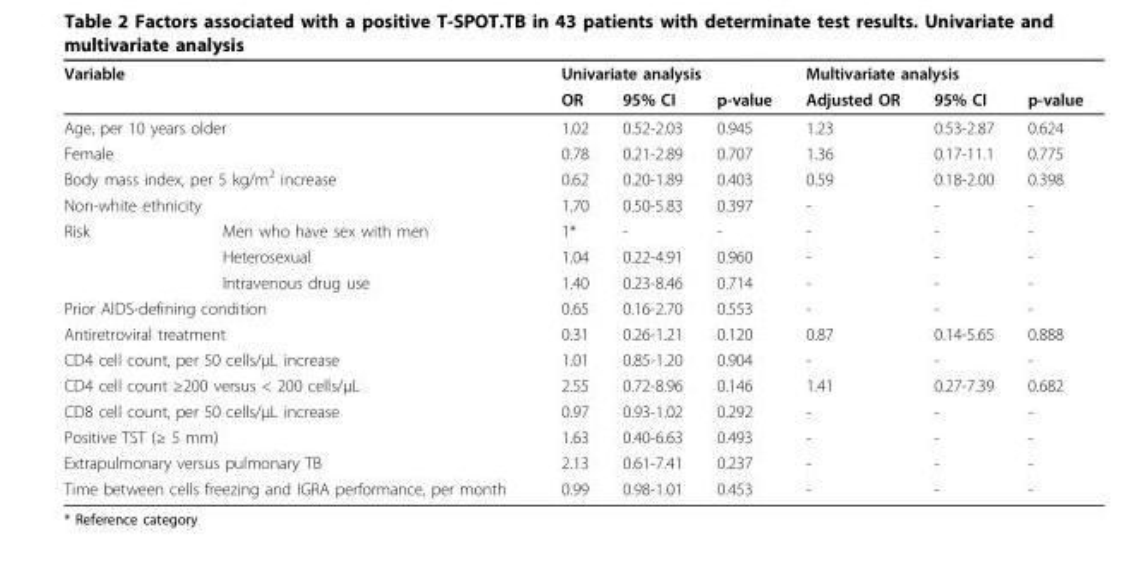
<table><thead><tr><td colspan="2">Variable</td><td colspan="3">Univariate analysis</td><td colspan="3">Multivariate analysis</td></tr><tr><td></td><td></td><td>OR</td><td>95% CI</td><td>p-value</td><td>Adjusted OR</td><td>95% CI</td><td>p-value</td></tr></thead><tbody><tr><td colspan="2">Age, per 10 years older</td><td>1.02</td><td>0.52-2.03</td><td>0.945</td><td>1.23</td><td>0.53-2.87</td><td>0.624</td></tr><tr><td colspan="2">Female</td><td>0.78</td><td>0.21-2.89</td><td>0.707</td><td>1.36</td><td>0.17-11.1</td><td>0.775</td></tr><tr><td colspan="2">Body mass index, per 5 kg/m<sup>2</sup> increase</td><td>0.62</td><td>0.20-1.89</td><td>0.403</td><td>0.59</td><td>0.18-2.00</td><td>0.398</td></tr><tr><td colspan="2">Non-white ethnicity</td><td>1.70</td><td>0.50-5.83</td><td>0.397</td><td>-</td><td>-</td><td>-</td></tr><tr><td rowspan="3">Risk</td><td>Men who have sex with men</td><td>1*</td><td>-</td><td>-</td><td>-</td><td>-</td><td>-</td></tr><tr><td>Heterosexual</td><td>1.04</td><td>0.22-4.91</td><td>0.960</td><td>-</td><td>-</td><td>-</td></tr><tr><td>Intravenous drug use</td><td>1.40</td><td>0.23-8.46</td><td>0.714</td><td>-</td><td>-</td><td>-</td></tr><tr><td colspan="2">Prior AIDS-defining condition</td><td>0.65</td><td>0.16-2.70</td><td>0.553</td><td>-</td><td>-</td><td>-</td></tr><tr><td colspan="2">Antiretroviral treatment</td><td>0.31</td><td>0.26-1.21</td><td>0.120</td><td>0.87</td><td>0.14-5.65</td><td>0.888</td></tr><tr><td colspan="2">CD4 cell count, per 50 cells/μL increase</td><td>1.01</td><td>0.85-1.20</td><td>0.904</td><td>-</td><td>-</td><td>-</td></tr><tr><td colspan="2">CD4 cell count ≥200 versus &lt; 200 cells/μL</td><td>2.55</td><td>0.72-8.96</td><td>0.146</td><td>1.41</td><td>0.27-7.39</td><td>0.682</td></tr><tr><td colspan="2">CD8 cell count, per 50 cells/μL increase</td><td>0.97</td><td>0.93-1.02</td><td>0.292</td><td>-</td><td>-</td><td>-</td></tr><tr><td colspan="2">Positive TST (≥ 5 mm)</td><td>1.63</td><td>0.40-6.63</td><td>0.493</td><td>-</td><td>-</td><td>-</td></tr><tr><td colspan="2">Extrapulmonary versus pulmonary TB</td><td>2.13</td><td>0.61-7.41</td><td>0.237</td><td>-</td><td>-</td><td>-</td></tr><tr><td colspan="2">Time between cells freezing and IGRA performance, per month</td><td>0.99</td><td>0.98-1.01</td><td>0.453</td><td>-</td><td>-</td><td>-</td></tr></tbody></table>